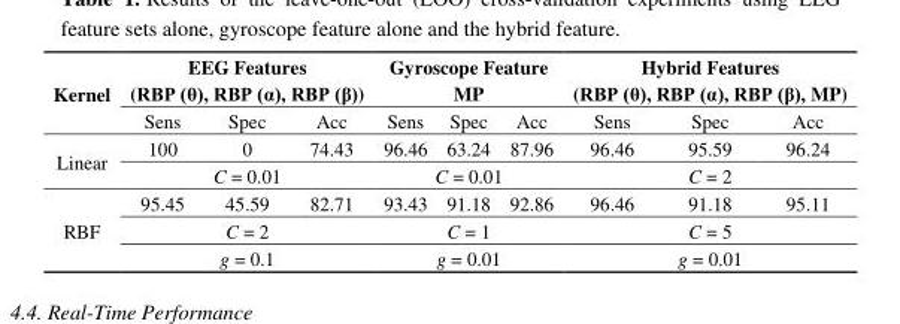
<table><tbody><tr><td rowspan="2">Kernel</td><td colspan="3">EEG Features (RBP (θ), RBP (α), RBP (β))</td><td colspan="3">Gyroscope Feature MP</td><td colspan="3">Hybrid Features (RBP (θ), RBP (α), RBP (β), MP)</td></tr><tr><td>Sens</td><td>Spec</td><td>Acc</td><td>Sens</td><td>Spec</td><td>Acc</td><td>Sens</td><td>Spec</td><td>Acc</td></tr><tr><td rowspan="2">Linear</td><td>100</td><td>0</td><td>74.43</td><td>96.46</td><td>63.24</td><td>87.96</td><td>96.46</td><td>95.59</td><td>96.24</td></tr><tr><td colspan="3">C = 0.01</td><td colspan="3">C = 0.01</td><td colspan="3">C = 2</td></tr><tr><td rowspan="3">RBF</td><td>95.45</td><td>45.59</td><td>82.71</td><td>93.43</td><td>91.18</td><td>92.86</td><td>96.46</td><td>91.18</td><td>95.11</td></tr><tr><td colspan="3">C = 2</td><td colspan="3">C = 1</td><td colspan="3">C = 5</td></tr><tr><td colspan="3">g = 0.1</td><td colspan="3">g = 0.01</td><td colspan="3">g = 0.01</td></tr></tbody></table>